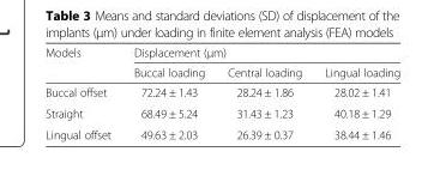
<table><thead><tr><td rowspan="2">Models</td><td colspan="3">Displacement (μm)</td></tr><tr><td>Buccal loading</td><td>Central loading</td><td>Lingual loading</td></tr></thead><tbody><tr><td>Buccal offset</td><td>72.24 ± 1.43</td><td>28.24 ± 1.86</td><td>28.02 ± 1.41</td></tr><tr><td>Straight</td><td>68.49 ± 5.24</td><td>31.43 ± 1.23</td><td>40.18 ± 1.29</td></tr><tr><td>Lingual offset</td><td>49.63 ± 2.03</td><td>26.39 ± 0.37</td><td>38.44 ± 1.46</td></tr></tbody></table>